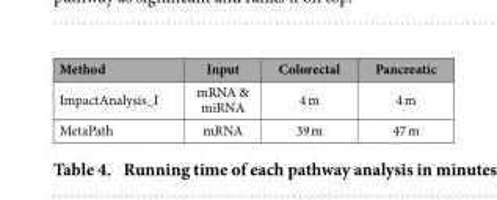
<table><thead><tr><td>Method</td><td>Input</td><td>Colorectal</td><td>Pancreatic</td></tr></thead><tbody><tr><td>ImpactAnalysis_I</td><td>mRNA &amp; miRNA</td><td>4 m</td><td>4 m</td></tr><tr><td>MetaPath</td><td>mRNA</td><td>39 m</td><td>47 m</td></tr></tbody></table>